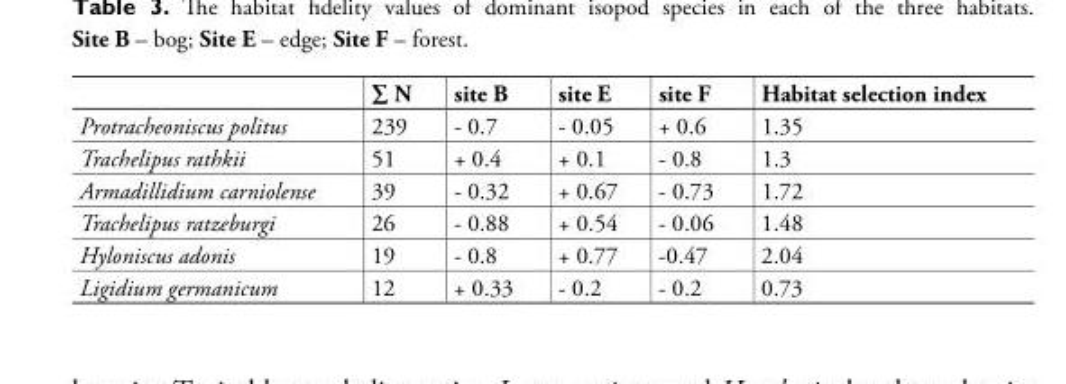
<table><thead><tr><td></td><td>∑ N</td><td>site B</td><td>site E</td><td>site F</td><td>Habitat selection index</td></tr></thead><tbody><tr><td>Protracheoniscus politus</td><td>239</td><td>- 0.7</td><td>- 0.05</td><td>+ 0.6</td><td>1.35</td></tr><tr><td>Trachelipus rathkii</td><td>51</td><td>+ 0.4</td><td>+ 0.1</td><td>- 0.8</td><td>1.3</td></tr><tr><td>Armadillidium carniolense</td><td>39</td><td>- 0.32</td><td>+ 0.67</td><td>- 0.73</td><td>1.72</td></tr><tr><td>Trachelipus ratzeburgi</td><td>26</td><td>- 0.88</td><td>+ 0.54</td><td>- 0.06</td><td>1.48</td></tr><tr><td>Hyloniscus adonis</td><td>19</td><td>- 0.8</td><td>+ 0.77</td><td>-0.47</td><td>2.04</td></tr><tr><td>Ligidium germanicum</td><td>12</td><td>+ 0.33</td><td>- 0.2</td><td>- 0.2</td><td>0.73</td></tr></tbody></table>